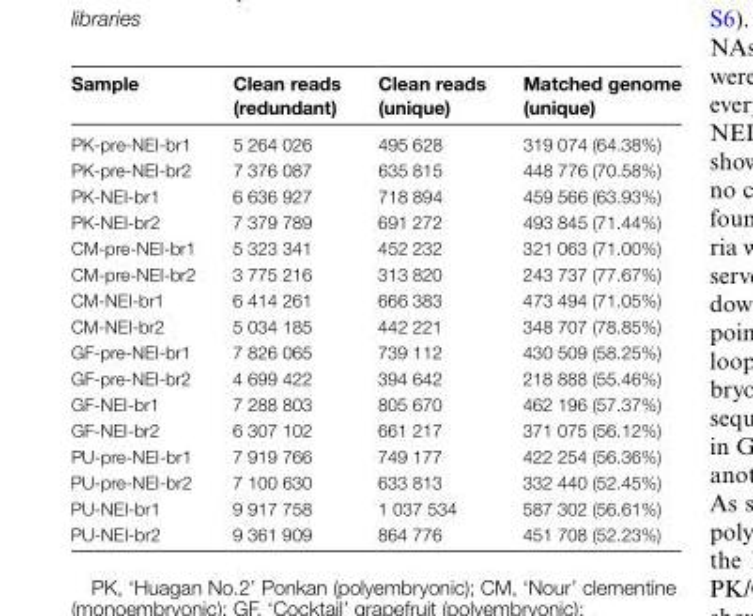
<table><thead><tr><td>Sample</td><td>Clean reads (redundant)</td><td>Clean reads (unique)</td><td>Matched genome (unique)</td></tr></thead><tbody><tr><td>PK-pre-NEI-br1</td><td>5 264 026</td><td>495 628</td><td>319 074 (64.38%)</td></tr><tr><td>PK-pre-NEI-br2</td><td>7 376 087</td><td>635 815</td><td>448 776 (70.58%)</td></tr><tr><td>PK-NEI-br1</td><td>6 636 927</td><td>718 894</td><td>459 566 (63.93%)</td></tr><tr><td>PK-NEI-br2</td><td>7 379 789</td><td>691 272</td><td>493 845 (71.44%)</td></tr><tr><td>CM-pre-NEI-br1</td><td>5 323 341</td><td>452 232</td><td>321 063 (71.00%)</td></tr><tr><td>CM-pre-NEI-br2</td><td>3 775 216</td><td>313 820</td><td>243 737 (77.67%)</td></tr><tr><td>CM-NEI-br1</td><td>6 414 261</td><td>666 383</td><td>473 494 (71.05%)</td></tr><tr><td>CM-NEI-br2</td><td>5 034 185</td><td>442 221</td><td>348 707 (78.85%)</td></tr><tr><td>GF-pre-NEI-br1</td><td>7 826 065</td><td>739 112</td><td>430 509 (58.25%)</td></tr><tr><td>GF-pre-NEI-br2</td><td>4 699 422</td><td>394 642</td><td>218 888 (55.46%)</td></tr><tr><td>GF-NEI-br1</td><td>7 288 803</td><td>805 670</td><td>462 196 (57.37%)</td></tr><tr><td>GF-NEI-br2</td><td>6 307 102</td><td>661 217</td><td>371 075 (56.12%)</td></tr><tr><td>PU-pre-NEI-br1</td><td>7 919 766</td><td>749 177</td><td>422 254 (56.36%)</td></tr><tr><td>PU-pre-NEI-br2</td><td>7 100 630</td><td>633 813</td><td>332 440 (52.45%)</td></tr><tr><td>PU-NEI-br1</td><td>9 917 758</td><td>1 037 534</td><td>587 302 (56.61%)</td></tr><tr><td>PU-NEI-br2</td><td>9 361 909</td><td>864 776</td><td>451 708 (52.23%)</td></tr></tbody></table>